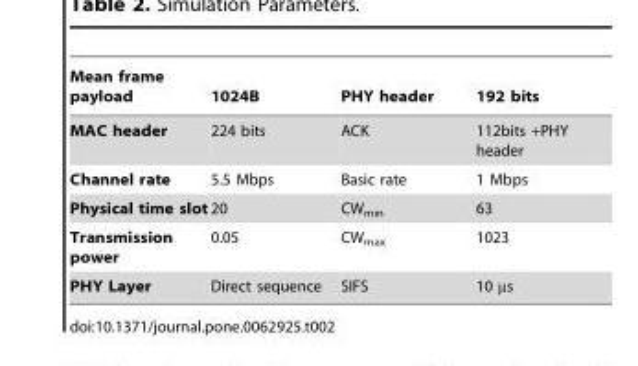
<table><thead><tr><td>Mean frame payload</td><td>1024B</td><td>PHY header</td><td>192 bits</td></tr></thead><tbody><tr><td>MAC header</td><td>224 bits</td><td>ACK</td><td>112bits +PHY header</td></tr><tr><td>Channel rate</td><td>5.5 Mbps</td><td>Basic rate</td><td>1 Mbps</td></tr><tr><td>Physical time slot</td><td>20</td><td>CW<sub>min</sub></td><td>63</td></tr><tr><td>Transmission power</td><td>0.05</td><td>CW<sub>max</sub></td><td>1023</td></tr><tr><td>PHY Layer</td><td>Direct sequence</td><td>SIFS</td><td>10 µs</td></tr></tbody></table>